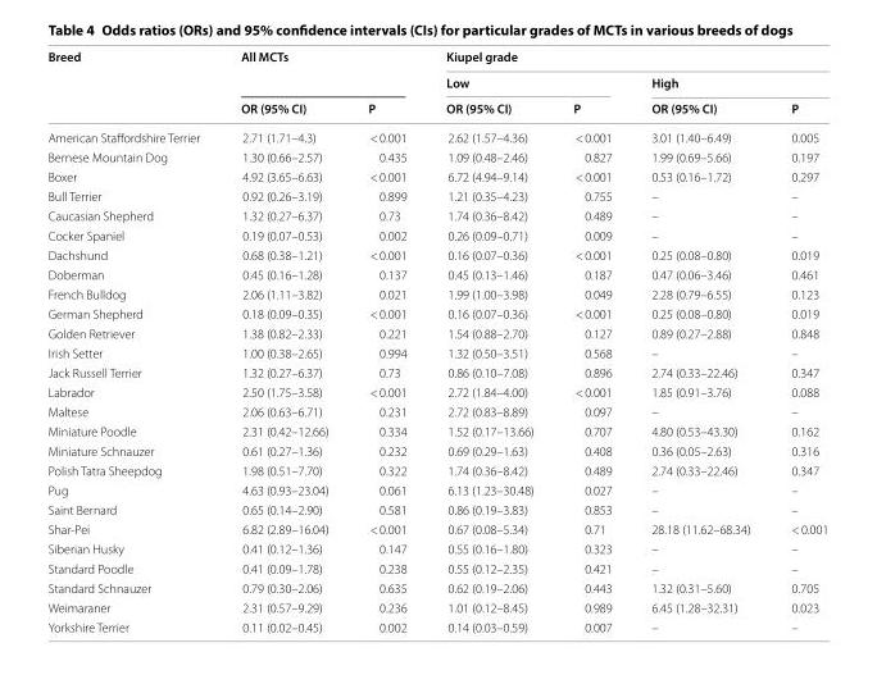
<table><thead><tr><td rowspan="3">Breed</td><td rowspan="2" colspan="2">All MCTs</td><td colspan="4">Kiupel grade</td></tr><tr><td colspan="2">Low</td><td colspan="2">High</td></tr><tr><td>OR (95% CI)</td><td>P</td><td>OR (95% CI)</td><td>P</td><td>OR (95% CI)</td><td>P</td></tr></thead><tbody><tr><td>American Staffordshire Terrier</td><td>2.71 (1.71–4.3)</td><td>&lt; 0.001</td><td>2.62 (1.57–4.36)</td><td>&lt; 0.001</td><td>3.01 (1.40–6.49)</td><td>0.005</td></tr><tr><td>Bernese Mountain Dog</td><td>1.30 (0.66–2.57)</td><td>0.435</td><td>1.09 (0.48–2.46)</td><td>0.827</td><td>1.99 (0.69–5.66)</td><td>0.197</td></tr><tr><td>Boxer</td><td>4.92 (3.65–6.63)</td><td>&lt; 0.001</td><td>6.72 (4.94–9.14)</td><td>&lt; 0.001</td><td>0.53 (0.16–1.72)</td><td>0.297</td></tr><tr><td>Bull Terrier</td><td>0.92 (0.26–3.19)</td><td>0.899</td><td>1.21 (0.35–4.23)</td><td>0.755</td><td>–</td><td>–</td></tr><tr><td>Caucasian Shepherd</td><td>1.32 (0.27–6.37)</td><td>0.73</td><td>1.74 (0.36–8.42)</td><td>0.489</td><td>–</td><td>–</td></tr><tr><td>Cocker Spaniel</td><td>0.19 (0.07–0.53)</td><td>0.002</td><td>0.26 (0.09–0.71)</td><td>0.009</td><td>–</td><td>–</td></tr><tr><td>Dachshund</td><td>0.68 (0.38–1.21)</td><td>&lt; 0.001</td><td>0.16 (0.07–0.36)</td><td>&lt; 0.001</td><td>0.25 (0.08–0.80)</td><td>0.019</td></tr><tr><td>Doberman</td><td>0.45 (0.16–1.28)</td><td>0.137</td><td>0.45 (0.13–1.46)</td><td>0.187</td><td>0.47 (0.06–3.46)</td><td>0.461</td></tr><tr><td>French Bulldog</td><td>2.06 (1.11–3.82)</td><td>0.021</td><td>1.99 (1.00–3.98)</td><td>0.049</td><td>2.28 (0.79–6.55)</td><td>0.123</td></tr><tr><td>German Shepherd</td><td>0.18 (0.09–0.35)</td><td>&lt; 0.001</td><td>0.16 (0.07–0.36)</td><td>&lt; 0.001</td><td>0.25 (0.08–0.80)</td><td>0.019</td></tr><tr><td>Golden Retriever</td><td>1.38 (0.82–2.33)</td><td>0.221</td><td>1.54 (0.88–2.70)</td><td>0.127</td><td>0.89 (0.27–2.88)</td><td>0.848</td></tr><tr><td>Irish Setter</td><td>1.00 (0.38–2.65)</td><td>0.994</td><td>1.32 (0.50–3.51)</td><td>0.568</td><td>–</td><td>–</td></tr><tr><td>Jack Russell Terrier</td><td>1.32 (0.27–6.37)</td><td>0.73</td><td>0.86 (0.10–7.08)</td><td>0.896</td><td>2.74 (0.33–22.46)</td><td>0.347</td></tr><tr><td>Labrador</td><td>2.50 (1.75–3.58)</td><td>&lt; 0.001</td><td>2.72 (1.84–4.00)</td><td>&lt; 0.001</td><td>1.85 (0.91–3.76)</td><td>0.088</td></tr><tr><td>Maltese</td><td>2.06 (0.63–6.71)</td><td>0.231</td><td>2.72 (0.83–8.89)</td><td>0.097</td><td>–</td><td>–</td></tr><tr><td>Miniature Poodle</td><td>2.31 (0.42–12.66)</td><td>0.334</td><td>1.52 (0.17–13.66)</td><td>0.707</td><td>4.80 (0.53–43.30)</td><td>0.162</td></tr><tr><td>Miniature Schnauzer</td><td>0.61 (0.27–1.36)</td><td>0.232</td><td>0.69 (0.29–1.63)</td><td>0.408</td><td>0.36 (0.05–2.63)</td><td>0.316</td></tr><tr><td>Polish Tatra Sheepdog</td><td>1.98 (0.51–7.70)</td><td>0.322</td><td>1.74 (0.36–8.42)</td><td>0.489</td><td>2.74 (0.33–22.46)</td><td>0.347</td></tr><tr><td>Pug</td><td>4.63 (0.93–23.04)</td><td>0.061</td><td>6.13 (1.23–30.48)</td><td>0.027</td><td>–</td><td>–</td></tr><tr><td>Saint Bernard</td><td>0.65 (0.14–2.90)</td><td>0.581</td><td>0.86 (0.19–3.83)</td><td>0.853</td><td>–</td><td>–</td></tr><tr><td>Shar-Pei</td><td>6.82 (2.89–16.04)</td><td>&lt; 0.001</td><td>0.67 (0.08–5.34)</td><td>0.71</td><td>28.18 (11.62–68.34)</td><td>&lt; 0.001</td></tr><tr><td>Siberian Husky</td><td>0.41 (0.12–1.36)</td><td>0.147</td><td>0.55 (0.16–1.80)</td><td>0.323</td><td>–</td><td>–</td></tr><tr><td>Standard Poodle</td><td>0.41 (0.09–1.78)</td><td>0.238</td><td>0.55 (0.12–2.35)</td><td>0.421</td><td>–</td><td>–</td></tr><tr><td>Standard Schnauzer</td><td>0.79 (0.30–2.06)</td><td>0.635</td><td>0.62 (0.19–2.06)</td><td>0.443</td><td>1.32 (0.31–5.60)</td><td>0.705</td></tr><tr><td>Weimaraner</td><td>2.31 (0.57–9.29)</td><td>0.236</td><td>1.01 (0.12–8.45)</td><td>0.989</td><td>6.45 (1.28–32.31)</td><td>0.023</td></tr><tr><td>Yorkshire Terrier</td><td>0.11 (0.02–0.45)</td><td>0.002</td><td>0.14 (0.03–0.59)</td><td>0.007</td><td>–</td><td>–</td></tr></tbody></table>